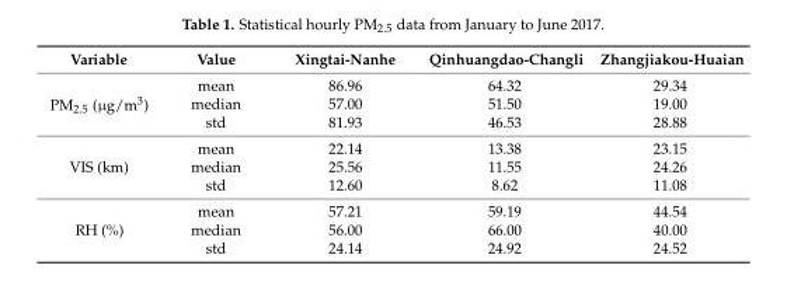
<table><thead><tr><td>Variable</td><td>Value</td><td>Xingtai-Nanhe</td><td>Qinhuangdao-Changli</td><td>Zhangjiakou-Huaian</td></tr></thead><tbody><tr><td rowspan="3">PM<sub>2.5</sub> (µg/m<sup>3</sup>)</td><td>mean</td><td>86.96</td><td>64.32</td><td>29.34</td></tr><tr><td>median</td><td>57.00</td><td>51.50</td><td>19.00</td></tr><tr><td>std</td><td>81.93</td><td>46.53</td><td>28.88</td></tr><tr><td rowspan="3">VIS (km)</td><td>mean</td><td>22.14</td><td>13.38</td><td>23.15</td></tr><tr><td>median</td><td>25.56</td><td>11.55</td><td>24.26</td></tr><tr><td>std</td><td>12.60</td><td>8.62</td><td>11.08</td></tr><tr><td rowspan="3">RH (%)</td><td>mean</td><td>57.21</td><td>59.19</td><td>44.54</td></tr><tr><td>median</td><td>56.00</td><td>66.00</td><td>40.00</td></tr><tr><td>std</td><td>24.14</td><td>24.92</td><td>24.52</td></tr></tbody></table>